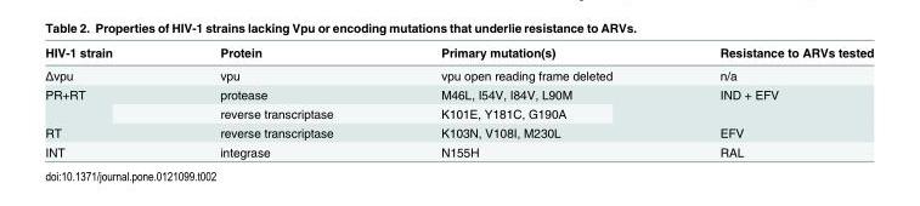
<table><thead><tr><td>HIV-1 strain</td><td>Protein</td><td>Primary mutation(s)</td><td>Resistance to ARVs tested</td></tr></thead><tbody><tr><td>Δvpu</td><td>vpu</td><td>vpu open reading frame deleted</td><td>n/a</td></tr><tr><td rowspan="2">PR+RT</td><td>protease</td><td>M46L, I54V, I84V, L90M</td><td rowspan="2">IND + EFV</td></tr><tr><td>reverse transcriptase</td><td>K101E, Y181C, G190A</td></tr><tr><td>RT</td><td>reverse transcriptase</td><td>K103N, V108I, M230L</td><td>EFV</td></tr><tr><td>INT</td><td>integrase</td><td>N155H</td><td>RAL</td></tr></tbody></table>